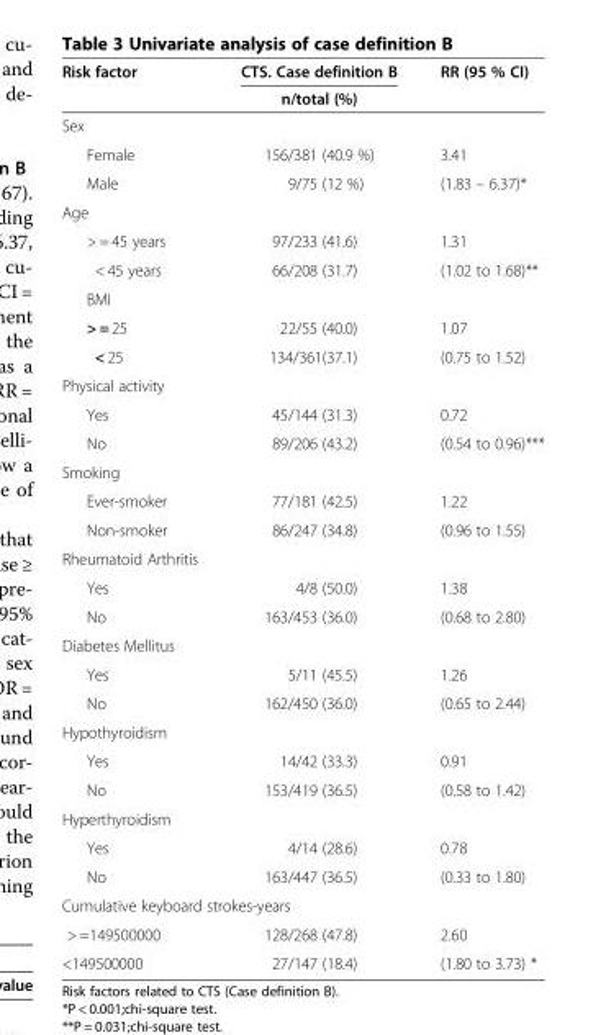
<table><thead><tr><td rowspan="2">Risk factor</td><td rowspan="2">CTS. Case definition B n/total (%)</td><td rowspan="2">RR (95 % CI)</td></tr><tr></tr></thead><tbody><tr><td colspan="3">Sex</td></tr><tr><td>Female</td><td>156/381 (40.9 %)</td><td>3.41</td></tr><tr><td>Male</td><td>9/75 (12 %)</td><td>(1.83 – 6.37)*</td></tr><tr><td colspan="3">Age</td></tr><tr><td>&gt; = 45 years</td><td>97/233 (41.6)</td><td>1.31</td></tr><tr><td>&lt; 45 years</td><td>66/208 (31.7)</td><td>(1.02 to 1.68)**</td></tr><tr><td colspan="3">BMI</td></tr><tr><td>&gt; = 25</td><td>22/55 (40.0)</td><td>1.07</td></tr><tr><td>&lt; 25</td><td>134/361(37.1)</td><td>(0.75 to 1.52)</td></tr><tr><td colspan="3">Physical activity</td></tr><tr><td>Yes</td><td>45/144 (31.3)</td><td>0.72</td></tr><tr><td>No</td><td>89/206 (43.2)</td><td>(0.54 to 0.96)***</td></tr><tr><td colspan="3">Smoking</td></tr><tr><td>Ever-smoker</td><td>77/181 (42.5)</td><td>1.22</td></tr><tr><td>Non-smoker</td><td>86/247 (34.8)</td><td>(0.96 to 1.55)</td></tr><tr><td colspan="3">Rheumatoid Arthritis</td></tr><tr><td>Yes</td><td>4/8 (50.0)</td><td>1.38</td></tr><tr><td>No</td><td>163/453 (36.0)</td><td>(0.68 to 2.80)</td></tr><tr><td colspan="3">Diabetes Mellitus</td></tr><tr><td>Yes</td><td>5/11 (45.5)</td><td>1.26</td></tr><tr><td>No</td><td>162/450 (36.0)</td><td>(0.65 to 2.44)</td></tr><tr><td colspan="3">Hypothyroidism</td></tr><tr><td>Yes</td><td>14/42 (33.3)</td><td>0.91</td></tr><tr><td>No</td><td>153/419 (36.5)</td><td>(0.58 to 1.42)</td></tr><tr><td colspan="3">Hyperthyroidism</td></tr><tr><td>Yes</td><td>4/14 (28.6)</td><td>0.78</td></tr><tr><td>No</td><td>163/447 (36.5)</td><td>(0.33 to 1.80)</td></tr><tr><td colspan="3">Cumulative keyboard strokes-years</td></tr><tr><td>&gt; =149500000</td><td>128/268 (47.8)</td><td>2.60</td></tr><tr><td>&lt;149500000</td><td>27/147 (18.4)</td><td>(1.80 to 3.73) *</td></tr></tbody></table>